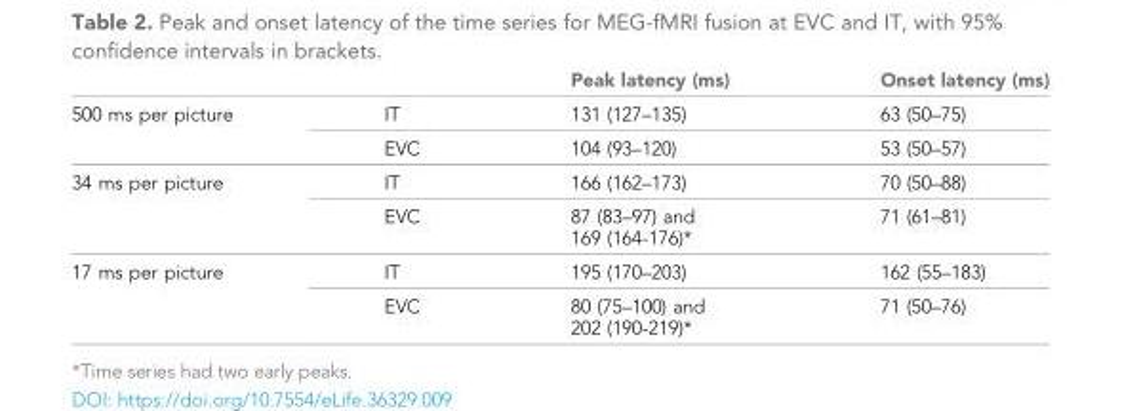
<table><thead><tr><td></td><td></td><td>Peak latency (ms)</td><td>Onset latency (ms)</td></tr></thead><tbody><tr><td rowspan="2">500 ms per picture</td><td>IT</td><td>131 (127–135)</td><td>63 (50–75)</td></tr><tr><td>EVC</td><td>104 (93–120)</td><td>53 (50–57)</td></tr><tr><td rowspan="2">34 ms per picture</td><td>IT</td><td>166 (162–173)</td><td>70 (50–88)</td></tr><tr><td>EVC</td><td>87 (83–97) and 169 (164-176)*</td><td>71 (61–81)</td></tr><tr><td rowspan="2">17 ms per picture</td><td>IT</td><td>195 (170–203)</td><td>162 (55–183)</td></tr><tr><td>EVC</td><td>80 (75–100) and 202 (190-219)*</td><td>71 (50–76)</td></tr></tbody></table>